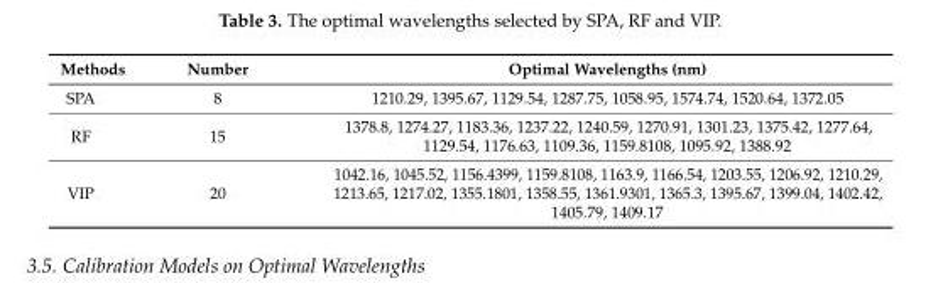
<table><thead><tr><td>Methods</td><td>Number</td><td>Optimal Wavelengths (nm)</td></tr></thead><tbody><tr><td>SPA</td><td>8</td><td>1210.29, 1395.67, 1129.54, 1287.75, 1058.95, 1574.74, 1520.64, 1372.05</td></tr><tr><td>RF</td><td>15</td><td>1378.8, 1274.27, 1183.36, 1237.22, 1240.59, 1270.91, 1301.23, 1375.42, 1277.64, 1129.54, 1176.63, 1109.36, 1159.8108, 1095.92, 1388.92</td></tr><tr><td>VIP</td><td>20</td><td>1042.16, 1045.52, 1156.4399, 1159.8108, 1163.9, 1166.54, 1203.55, 1206.92, 1210.29, 1213.65, 1217.02, 1355.1801, 1358.55, 1361.9301, 1365.3, 1395.67, 1399.04, 1402.42, 1405.79, 1409.17</td></tr></tbody></table>